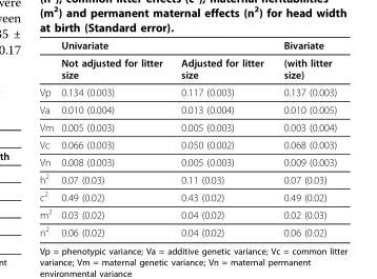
<table><thead><tr><td rowspan="2"></td><td colspan="2">Univariate</td><td rowspan="2">Bivariate (with litter size)</td></tr><tr><td>Not adjusted for litter size</td><td>Adjusted for litter size</td></tr></thead><tbody><tr><td>Vp</td><td>0.134 (0.003)</td><td>0.117 (0.003)</td><td>0.137 (0.003)</td></tr><tr><td>Va</td><td>0.010 (0.004)</td><td>0.013 (0.004)</td><td>0.010 (0.005)</td></tr><tr><td>Vm</td><td>0.005 (0.003)</td><td>0.005 (0.003)</td><td>0.003 (0.004)</td></tr><tr><td>Vc</td><td>0.066 (0.003)</td><td>0.050 (0.002)</td><td>0.068 (0.003)</td></tr><tr><td>Vn</td><td>0.008 (0.003)</td><td>0.005 (0.003)</td><td>0.009 (0.003)</td></tr><tr><td>h<sup>2</sup></td><td>0.07 (0.03)</td><td>0.11 (0.03)</td><td>0.07 (0.03)</td></tr><tr><td>c<sup>2</sup></td><td>0.49 (0.02)</td><td>0.43 (0.02)</td><td>0.49 (0.02)</td></tr><tr><td>m<sup>2</sup></td><td>0.03 (0.02)</td><td>0.04 (0.02)</td><td>0.02 (0.03)</td></tr><tr><td>n<sup>2</sup></td><td>0.06 (0.02)</td><td>0.04 (0.02)</td><td>0.06 (0.02)</td></tr></tbody></table>